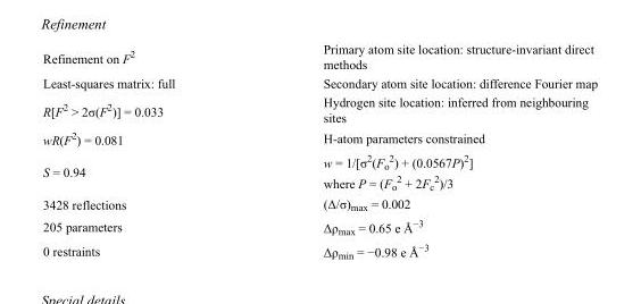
<table><tbody><tr><td>Refinement on F<sup>2</sup></td><td>Primary atom site location: structure-invariant direct methods</td></tr><tr><td>Least-squares matrix: full</td><td>Secondary atom site location: difference Fourier map</td></tr><tr><td>R[F<sup>2</sup> &gt; 2σ(F<sup>2</sup>)] = 0.033</td><td>Hydrogen site location: inferred from neighbouring sites</td></tr><tr><td>wR(F<sup>2</sup>) = 0.081</td><td>H-atom parameters constrained</td></tr><tr><td>S = 0.94</td><td>w = 1/[σ<sup>2</sup>(F<sub>o</sub> <sup>2</sup>) + (0.0567P)<sup>2</sup>] where P = (F<sub>o</sub> <sup>2</sup> + 2F<sub>c</sub> <sup>2</sup>)/3</td></tr><tr><td>3428 reflections</td><td>(Δ/σ)<sub>max</sub> = 0.002</td></tr><tr><td>205 parameters</td><td>Δρ<sub>max</sub> = 0.65 e Å<sup>−3</sup></td></tr><tr><td>0 restraints</td><td>Δρ<sub>min</sub> = −0.98 e Å<sup>−3</sup></td></tr></tbody></table>